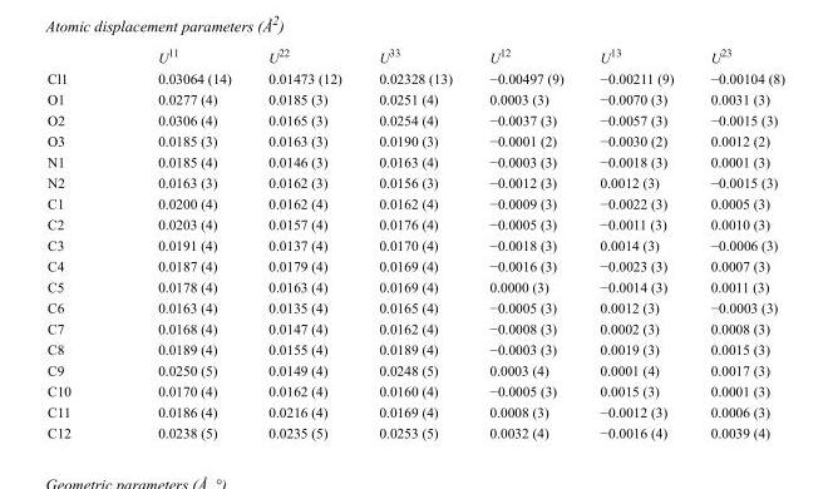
<table><thead><tr><td></td><td>U<sup>11</sup></td><td>U<sup>22</sup></td><td>U<sup>33</sup></td><td>U<sup>12</sup></td><td>U<sup>13</sup></td><td>U<sup>23</sup></td></tr></thead><tbody><tr><td>Cl1</td><td>0.03064 (14)</td><td>0.01473 (12)</td><td>0.02328 (13)</td><td>−0.00497 (9)</td><td>−0.00211 (9)</td><td>−0.00104 (8)</td></tr><tr><td>O1</td><td>0.0277 (4)</td><td>0.0185 (3)</td><td>0.0251 (4)</td><td>0.0003 (3)</td><td>−0.0070 (3)</td><td>0.0031 (3)</td></tr><tr><td>O2</td><td>0.0306 (4)</td><td>0.0165 (3)</td><td>0.0254 (4)</td><td>−0.0037 (3)</td><td>−0.0057 (3)</td><td>−0.0015 (3)</td></tr><tr><td>O3</td><td>0.0185 (3)</td><td>0.0163 (3)</td><td>0.0190 (3)</td><td>−0.0001 (2)</td><td>−0.0030 (2)</td><td>0.0012 (2)</td></tr><tr><td>N1</td><td>0.0185 (4)</td><td>0.0146 (3)</td><td>0.0163 (4)</td><td>−0.0003 (3)</td><td>−0.0018 (3)</td><td>0.0001 (3)</td></tr><tr><td>N2</td><td>0.0163 (3)</td><td>0.0162 (3)</td><td>0.0156 (3)</td><td>−0.0012 (3)</td><td>0.0012 (3)</td><td>−0.0015 (3)</td></tr><tr><td>C1</td><td>0.0200 (4)</td><td>0.0162 (4)</td><td>0.0162 (4)</td><td>−0.0009 (3)</td><td>−0.0022 (3)</td><td>0.0005 (3)</td></tr><tr><td>C2</td><td>0.0203 (4)</td><td>0.0157 (4)</td><td>0.0176 (4)</td><td>−0.0005 (3)</td><td>−0.0011 (3)</td><td>0.0010 (3)</td></tr><tr><td>C3</td><td>0.0191 (4)</td><td>0.0137 (4)</td><td>0.0170 (4)</td><td>−0.0018 (3)</td><td>0.0014 (3)</td><td>−0.0006 (3)</td></tr><tr><td>C4</td><td>0.0187 (4)</td><td>0.0179 (4)</td><td>0.0169 (4)</td><td>−0.0016 (3)</td><td>−0.0023 (3)</td><td>0.0007 (3)</td></tr><tr><td>C5</td><td>0.0178 (4)</td><td>0.0163 (4)</td><td>0.0169 (4)</td><td>0.0000 (3)</td><td>−0.0014 (3)</td><td>0.0011 (3)</td></tr><tr><td>C6</td><td>0.0163 (4)</td><td>0.0135 (4)</td><td>0.0165 (4)</td><td>−0.0005 (3)</td><td>0.0012 (3)</td><td>−0.0003 (3)</td></tr><tr><td>C7</td><td>0.0168 (4)</td><td>0.0147 (4)</td><td>0.0162 (4)</td><td>−0.0008 (3)</td><td>0.0002 (3)</td><td>0.0008 (3)</td></tr><tr><td>C8</td><td>0.0189 (4)</td><td>0.0155 (4)</td><td>0.0189 (4)</td><td>−0.0003 (3)</td><td>0.0019 (3)</td><td>0.0015 (3)</td></tr><tr><td>C9</td><td>0.0250 (5)</td><td>0.0149 (4)</td><td>0.0248 (5)</td><td>0.0003 (4)</td><td>0.0001 (4)</td><td>0.0017 (3)</td></tr><tr><td>C10</td><td>0.0170 (4)</td><td>0.0162 (4)</td><td>0.0160 (4)</td><td>−0.0005 (3)</td><td>0.0015 (3)</td><td>0.0001 (3)</td></tr><tr><td>C11</td><td>0.0186 (4)</td><td>0.0216 (4)</td><td>0.0169 (4)</td><td>0.0008 (3)</td><td>−0.0012 (3)</td><td>0.0006 (3)</td></tr><tr><td>C12</td><td>0.0238 (5)</td><td>0.0235 (5)</td><td>0.0253 (5)</td><td>0.0032 (4)</td><td>−0.0016 (4)</td><td>0.0039 (4)</td></tr></tbody></table>